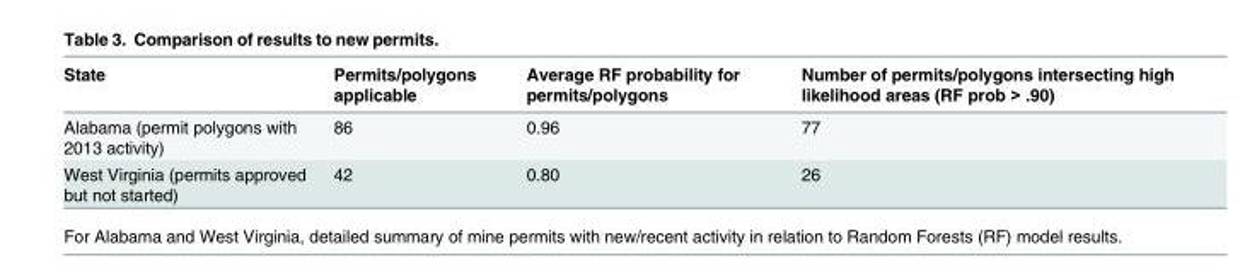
<table><thead><tr><td>State</td><td>Permits/polygons applicable</td><td>Average RF probability for permits/polygons</td><td>Number of permits/polygons intersecting high likelihood areas (RF prob &gt; .90)</td></tr></thead><tbody><tr><td>Alabama (permit polygons with 2013 activity)</td><td>86</td><td>0.96</td><td>77</td></tr><tr><td>West Virginia (permits approved but not started)</td><td>42</td><td>0.80</td><td>26</td></tr></tbody></table>